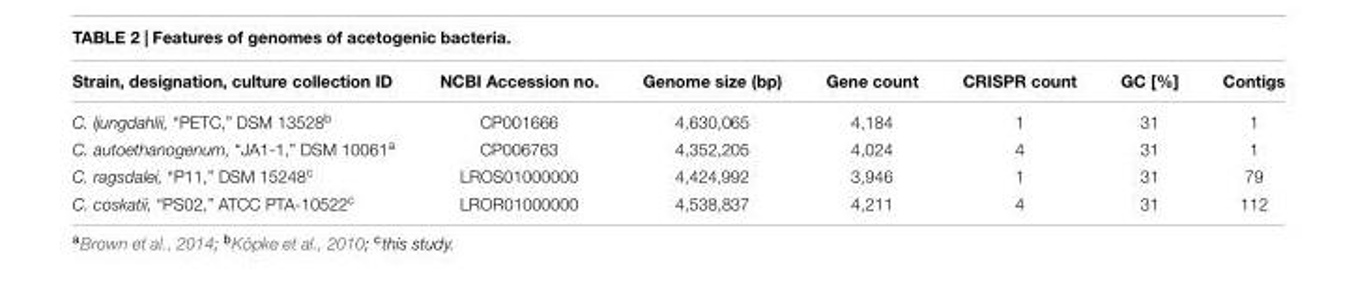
<table><thead><tr><td>Strain, designation, culture collection ID</td><td>NCBI Accession no.</td><td>Genome size (bp)</td><td>Gene count</td><td>CRISPR count</td><td>GC [%]</td><td>Contigs</td></tr></thead><tbody><tr><td>C. ljungdahlii, “PETC,” DSM 13528<sup>b</sup></td><td>CP001666</td><td>4,630,065</td><td>4,184</td><td>1</td><td>31</td><td>1</td></tr><tr><td>C. autoethanogenum, “JA1-1,” DSM 10061<sup>a</sup></td><td>CP006763</td><td>4,352,205</td><td>4,024</td><td>4</td><td>31</td><td>1</td></tr><tr><td>C. ragsdalei, “P11,” DSM 15248<sup>c</sup></td><td>LROS01000000</td><td>4,424,992</td><td>3,946</td><td>1</td><td>31</td><td>79</td></tr><tr><td>C. coskatii, “PS02,” ATCC PTA-10522<sup>c</sup></td><td>LROR01000000</td><td>4,538,837</td><td>4,211</td><td>4</td><td>31</td><td>112</td></tr></tbody></table>